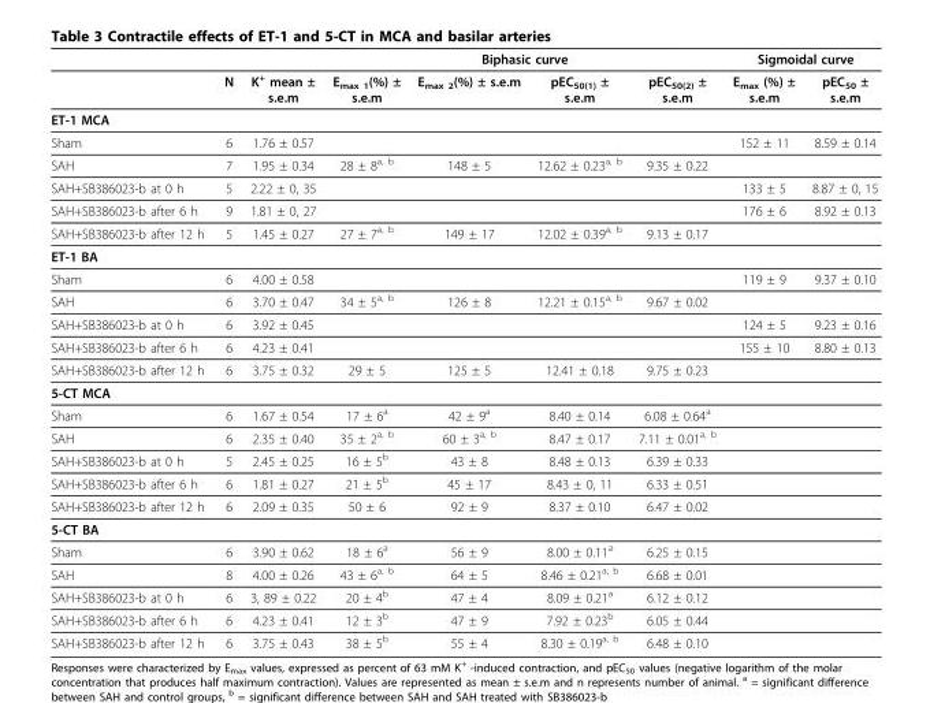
<table><thead><tr><td rowspan="2"></td><td rowspan="2">N</td><td rowspan="2">K<sup>+</sup> mean ± s.e.m</td><td colspan="4">Biphasic curve</td><td colspan="2">Sigmoidal curve</td></tr><tr><td>E<sub>max 1</sub>(%) ± s.e.m</td><td>E<sub>max 2</sub>(%) ± s.e.m</td><td>pEC<sub>50(1)</sub> ± s.e.m</td><td>pEC<sub>50(2)</sub> ± s.e.m</td><td>E<sub>max</sub> (%) ± s.e.m</td><td>pEC<sub>50</sub> ± s.e.m</td></tr></thead><tbody><tr><td colspan="9">ET-1 MCA</td></tr><tr><td>Sham</td><td>6</td><td>1.76 ± 0.57</td><td></td><td></td><td></td><td></td><td>152 ± 11</td><td>8.59 ± 0.14</td></tr><tr><td>SAH</td><td>7</td><td>1.95 ± 0.34</td><td>28 ± 8<sup>a, b</sup></td><td>148 ± 5</td><td>12.62 ± 0.23<sup>a, b</sup></td><td>9.35 ± 0.22</td><td></td><td></td></tr><tr><td>SAH+SB386023-b at 0 h</td><td>5</td><td>2.22 ± 0, 35</td><td></td><td></td><td></td><td></td><td>133 ± 5</td><td>8.87 ± 0, 15</td></tr><tr><td>SAH+SB386023-b after 6 h</td><td>9</td><td>1.81 ± 0, 27</td><td></td><td></td><td></td><td></td><td>176 ± 6</td><td>8.92 ± 0.13</td></tr><tr><td>SAH+SB386023-b after 12 h</td><td>5</td><td>1.45 ± 0.27</td><td>27 ± 7<sup>a, b</sup></td><td>149 ± 17</td><td>12.02 ± 0.39<sup>a, b</sup></td><td>9.13 ± 0.17</td><td></td><td></td></tr><tr><td colspan="9">ET-1 BA</td></tr><tr><td>Sham</td><td>6</td><td>4.00 ± 0.58</td><td></td><td></td><td></td><td></td><td>119 ± 9</td><td>9.37 ± 0.10</td></tr><tr><td>SAH</td><td>6</td><td>3.70 ± 0.47</td><td>34 ± 5<sup>a, b</sup></td><td>126 ± 8</td><td>12.21 ± 0.15<sup>a, b</sup></td><td>9.67 ± 0.02</td><td></td><td></td></tr><tr><td>SAH+SB386023-b at 0 h</td><td>6</td><td>3.92 ± 0.45</td><td></td><td></td><td></td><td></td><td>124 ± 5</td><td>9.23 ± 0.16</td></tr><tr><td>SAH+SB386023-b after 6 h</td><td>6</td><td>4.23 ± 0.41</td><td></td><td></td><td></td><td></td><td>155 ± 10</td><td>8.80 ± 0.13</td></tr><tr><td>SAH+SB386023-b after 12 h</td><td>6</td><td>3.75 ± 0.32</td><td>29 ± 5</td><td>125 ± 5</td><td>12.41 ± 0.18</td><td>9.75 ± 0.23</td><td></td><td></td></tr><tr><td colspan="9">5-CT MCA</td></tr><tr><td>Sham</td><td>6</td><td>1.67 ± 0.54</td><td>17 ± 6<sup>a</sup></td><td>42 ± 9<sup>a</sup></td><td>8.40 ± 0.14</td><td>6.08 ± 0.64<sup>a</sup></td><td></td><td></td></tr><tr><td>SAH</td><td>6</td><td>2.35 ± 0.40</td><td>35 ± 2<sup>a, b</sup></td><td>60 ± 3<sup>a, b</sup></td><td>8.47 ± 0.17</td><td>7.11 ± 0.01<sup>a, b</sup></td><td></td><td></td></tr><tr><td>SAH+SB386023-b at 0 h</td><td>5</td><td>2.45 ± 0.25</td><td>16 ± 5<sup>b</sup></td><td>43 ± 8</td><td>8.48 ± 0.13</td><td>6.39 ± 0.33</td><td></td><td></td></tr><tr><td>SAH+SB386023-b after 6 h</td><td>6</td><td>1.81 ± 0.27</td><td>21 ± 5<sup>b</sup></td><td>45 ± 17</td><td>8.43 ± 0, 11</td><td>6.33 ± 0.51</td><td></td><td></td></tr><tr><td>SAH+SB386023-b after 12 h</td><td>6</td><td>2.09 ± 0.35</td><td>50 ± 6</td><td>92 ± 9</td><td>8.37 ± 0.10</td><td>6.47 ± 0.02</td><td></td><td></td></tr><tr><td colspan="9">5-CT BA</td></tr><tr><td>Sham</td><td>6</td><td>3.90 ± 0.62</td><td>18 ± 6<sup>a</sup></td><td>56 ± 9</td><td>8.00 ± 0.11<sup>a</sup></td><td>6.25 ± 0.15</td><td></td><td></td></tr><tr><td>SAH</td><td>8</td><td>4.00 ± 0.26</td><td>43 ± 6<sup>a, b</sup></td><td>64 ± 5</td><td>8.46 ± 0.21<sup>a, b</sup></td><td>6.68 ± 0.01</td><td></td><td></td></tr><tr><td>SAH+SB386023-b at 0 h</td><td>6</td><td>3, 89 ± 0.22</td><td>20 ± 4<sup>b</sup></td><td>47 ± 4</td><td>8.09 ± 0.21<sup>a</sup></td><td>6.12 ± 0.12</td><td></td><td></td></tr><tr><td>SAH+SB386023-b after 6 h</td><td>6</td><td>4.23 ± 0.41</td><td>12 ± 3<sup>b</sup></td><td>47 ± 9</td><td>7.92 ± 0.23<sup>b</sup></td><td>6.05 ± 0.44</td><td></td><td></td></tr><tr><td>SAH+SB386023-b after 12 h</td><td>6</td><td>3.75 ± 0.43</td><td>38 ± 5<sup>b</sup></td><td>55 ± 4</td><td>8.30 ± 0.19<sup>a, b</sup></td><td>6.48 ± 0.10</td><td></td><td></td></tr></tbody></table>